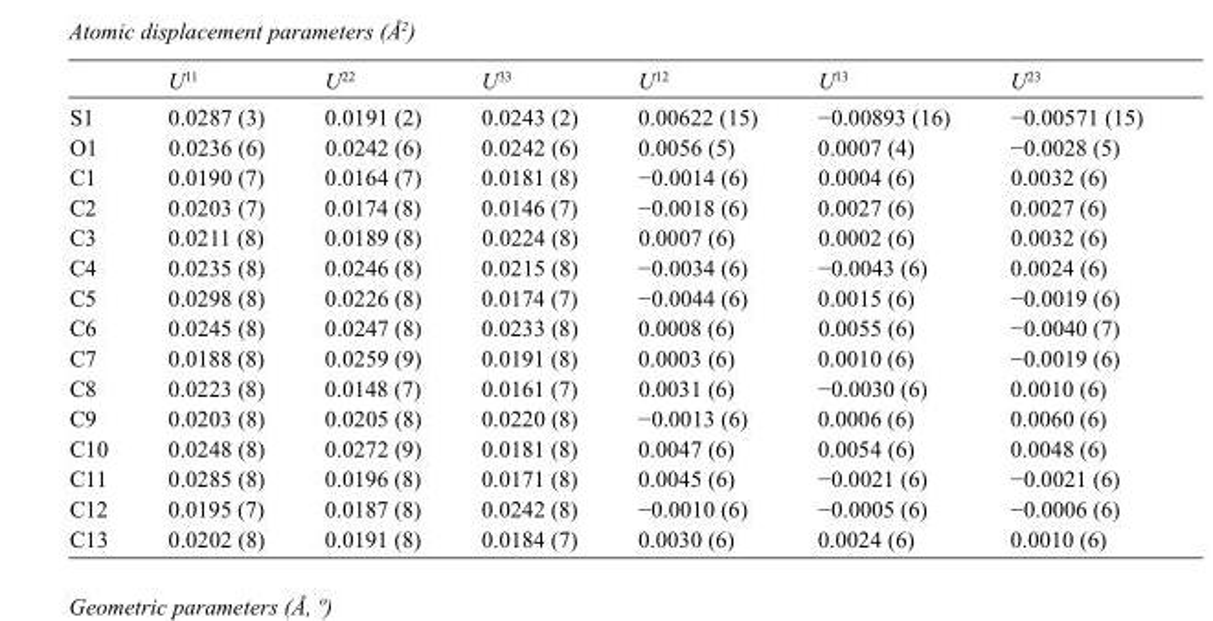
<table><thead><tr><td></td><td>U<sup>11</sup></td><td>U<sup>22</sup></td><td>U<sup>33</sup></td><td>U<sup>12</sup></td><td>U<sup>13</sup></td><td>U<sup>23</sup></td></tr></thead><tbody><tr><td>S1</td><td>0.0287 (3)</td><td>0.0191 (2)</td><td>0.0243 (2)</td><td>0.00622 (15)</td><td>−0.00893 (16)</td><td>−0.00571 (15)</td></tr><tr><td>O1</td><td>0.0236 (6)</td><td>0.0242 (6)</td><td>0.0242 (6)</td><td>0.0056 (5)</td><td>0.0007 (4)</td><td>−0.0028 (5)</td></tr><tr><td>C1</td><td>0.0190 (7)</td><td>0.0164 (7)</td><td>0.0181 (8)</td><td>−0.0014 (6)</td><td>0.0004 (6)</td><td>0.0032 (6)</td></tr><tr><td>C2</td><td>0.0203 (7)</td><td>0.0174 (8)</td><td>0.0146 (7)</td><td>−0.0018 (6)</td><td>0.0027 (6)</td><td>0.0027 (6)</td></tr><tr><td>C3</td><td>0.0211 (8)</td><td>0.0189 (8)</td><td>0.0224 (8)</td><td>0.0007 (6)</td><td>0.0002 (6)</td><td>0.0032 (6)</td></tr><tr><td>C4</td><td>0.0235 (8)</td><td>0.0246 (8)</td><td>0.0215 (8)</td><td>−0.0034 (6)</td><td>−0.0043 (6)</td><td>0.0024 (6)</td></tr><tr><td>C5</td><td>0.0298 (8)</td><td>0.0226 (8)</td><td>0.0174 (7)</td><td>−0.0044 (6)</td><td>0.0015 (6)</td><td>−0.0019 (6)</td></tr><tr><td>C6</td><td>0.0245 (8)</td><td>0.0247 (8)</td><td>0.0233 (8)</td><td>0.0008 (6)</td><td>0.0055 (6)</td><td>−0.0040 (7)</td></tr><tr><td>C7</td><td>0.0188 (8)</td><td>0.0259 (9)</td><td>0.0191 (8)</td><td>0.0003 (6)</td><td>0.0010 (6)</td><td>−0.0019 (6)</td></tr><tr><td>C8</td><td>0.0223 (8)</td><td>0.0148 (7)</td><td>0.0161 (7)</td><td>0.0031 (6)</td><td>−0.0030 (6)</td><td>0.0010 (6)</td></tr><tr><td>C9</td><td>0.0203 (8)</td><td>0.0205 (8)</td><td>0.0220 (8)</td><td>−0.0013 (6)</td><td>0.0006 (6)</td><td>0.0060 (6)</td></tr><tr><td>C10</td><td>0.0248 (8)</td><td>0.0272 (9)</td><td>0.0181 (8)</td><td>0.0047 (6)</td><td>0.0054 (6)</td><td>0.0048 (6)</td></tr><tr><td>C11</td><td>0.0285 (8)</td><td>0.0196 (8)</td><td>0.0171 (8)</td><td>0.0045 (6)</td><td>−0.0021 (6)</td><td>−0.0021 (6)</td></tr><tr><td>C12</td><td>0.0195 (7)</td><td>0.0187 (8)</td><td>0.0242 (8)</td><td>−0.0010 (6)</td><td>−0.0005 (6)</td><td>−0.0006 (6)</td></tr><tr><td>C13</td><td>0.0202 (8)</td><td>0.0191 (8)</td><td>0.0184 (7)</td><td>0.0030 (6)</td><td>0.0024 (6)</td><td>0.0010 (6)</td></tr></tbody></table>